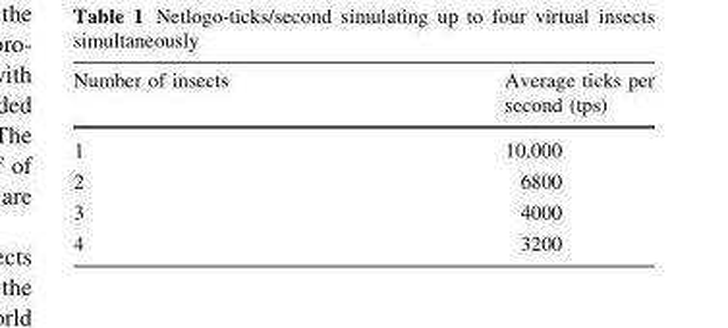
<table><thead><tr><td>Number of insects</td><td>Average ticks per second (tps)</td></tr></thead><tbody><tr><td>1</td><td>10,000</td></tr><tr><td>2</td><td>6800</td></tr><tr><td>3</td><td>4000</td></tr><tr><td>4</td><td>3200</td></tr></tbody></table>